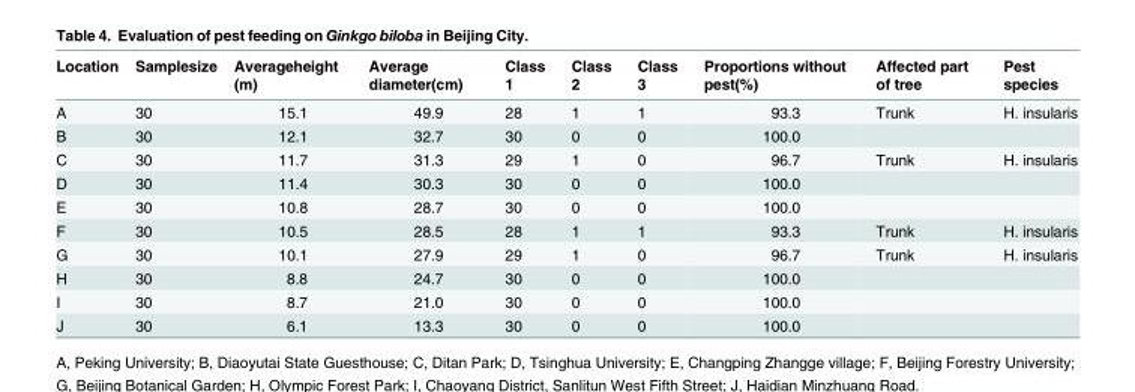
<table><thead><tr><td>Location</td><td>Samplesize</td><td>Averageheight (m)</td><td>Average diameter(cm)</td><td>Class 1</td><td>Class 2</td><td>Class 3</td><td>Proportions without pest(%)</td><td>Affected part of tree</td><td>Pest species</td></tr></thead><tbody><tr><td>A</td><td>30</td><td>15.1</td><td>49.9</td><td>28</td><td>1</td><td>1</td><td>93.3</td><td>Trunk</td><td>H. insularis</td></tr><tr><td>B</td><td>30</td><td>12.1</td><td>32.7</td><td>30</td><td>0</td><td>0</td><td>100.0</td><td></td><td></td></tr><tr><td>C</td><td>30</td><td>11.7</td><td>31.3</td><td>29</td><td>1</td><td>0</td><td>96.7</td><td>Trunk</td><td>H. insularis</td></tr><tr><td>D</td><td>30</td><td>11.4</td><td>30.3</td><td>30</td><td>0</td><td>0</td><td>100.0</td><td></td><td></td></tr><tr><td>E</td><td>30</td><td>10.8</td><td>28.7</td><td>30</td><td>0</td><td>0</td><td>100.0</td><td></td><td></td></tr><tr><td>F</td><td>30</td><td>10.5</td><td>28.5</td><td>28</td><td>1</td><td>1</td><td>93.3</td><td>Trunk</td><td>H. insularis</td></tr><tr><td>G</td><td>30</td><td>10.1</td><td>27.9</td><td>29</td><td>1</td><td>0</td><td>96.7</td><td>Trunk</td><td>H. insularis</td></tr><tr><td>H</td><td>30</td><td>8.8</td><td>24.7</td><td>30</td><td>0</td><td>0</td><td>100.0</td><td></td><td></td></tr><tr><td>I</td><td>30</td><td>8.7</td><td>21.0</td><td>30</td><td>0</td><td>0</td><td>100.0</td><td></td><td></td></tr><tr><td>J</td><td>30</td><td>6.1</td><td>13.3</td><td>30</td><td>0</td><td>0</td><td>100.0</td><td></td><td></td></tr></tbody></table>